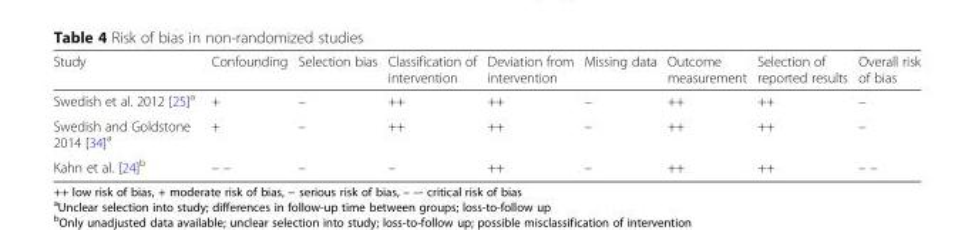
<table><thead><tr><td>Study</td><td>Confounding</td><td>Selection bias</td><td>Classification of intervention</td><td>Deviation from intervention</td><td>Missing data</td><td>Outcome measurement</td><td>Selection of reported results</td><td>Overall risk of bias</td></tr></thead><tbody><tr><td>Swedish et al. 2012 [25]<sup>a</sup></td><td>+</td><td>–</td><td>++</td><td>++</td><td>–</td><td>++</td><td>++</td><td>–</td></tr><tr><td>Swedish and Goldstone 2014 [34]<sup>a</sup></td><td>+</td><td>–</td><td>++</td><td>++</td><td>–</td><td>++</td><td>++</td><td>–</td></tr><tr><td>Kahn et al. [24]<sup>b</sup></td><td>– –</td><td>–</td><td>–</td><td>++</td><td>–</td><td>++</td><td>++</td><td>– –</td></tr></tbody></table>